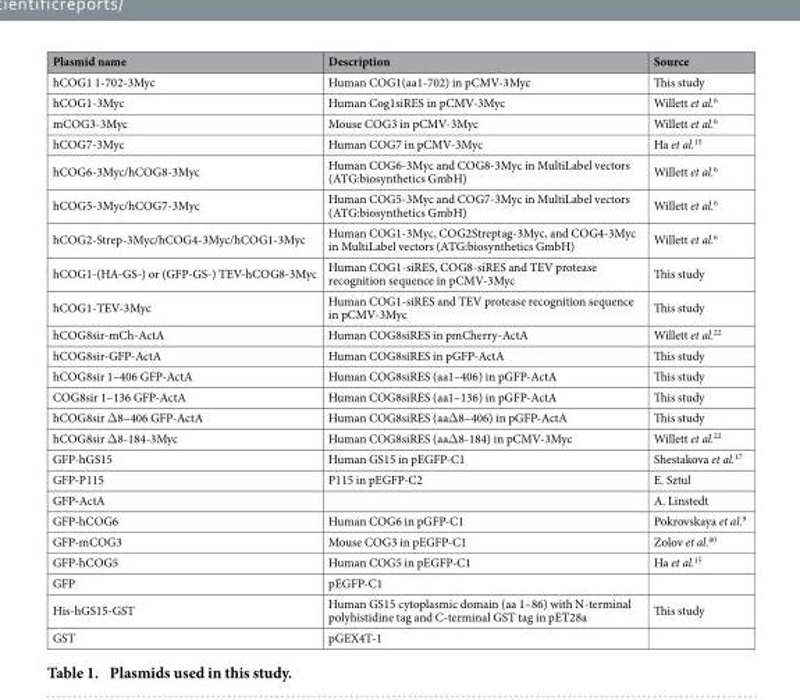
<table><thead><tr><td>Plasmid name</td><td>Description</td><td>Source</td></tr></thead><tbody><tr><td>hCOG1 1-702-3Myc</td><td>Human COG1(aa1-702) in pCMV-3Myc</td><td>This study</td></tr><tr><td>hCOG1-3Myc</td><td>Human Cog1siRES in pCMV-3Myc</td><td>Willett et al.<sup>6</sup></td></tr><tr><td>mCOG3-3Myc</td><td>Mouse COG3 in pCMV-3Myc</td><td>Willett et al.<sup>6</sup></td></tr><tr><td>hCOG7-3Myc</td><td>Human COG7 in pCMV-3Myc</td><td>Ha et al.<sup>15</sup></td></tr><tr><td>hCOG6-3Myc/hCOG8-3Myc</td><td>Human COG6-3Myc and COG8-3Myc in MultiLabel vectors (ATG:biosynthetics GmbH)</td><td>Willett et al.<sup>6</sup></td></tr><tr><td>hCOG5-3Myc/hCOG7-3Myc</td><td>Human COG5-3Myc and COG7-3Myc in MultiLabel vectors (ATG:biosynthetics GmbH)</td><td>Willett et al.<sup>6</sup></td></tr><tr><td>hCOG2-Strep-3Myc/hCOG4-3Myc/hCOG1-3Myc</td><td>Human COG1-3Myc, COG2Streptag-3Myc, and COG4-3Myc in MultiLabel vectors (ATG:biosynthetics GmbH)</td><td>Willett et al.<sup>6</sup></td></tr><tr><td>hCOG1-(HA-GS-) or (GFP-GS-) TEV-hCOG8-3Myc</td><td>Human COG1-siRES, COG8-siRES and TEV protease recognition sequence in pCMV-3Myc</td><td>This study</td></tr><tr><td>hCOG1-TEV-3Myc</td><td>Human COG1-siRES and TEV protease recognition sequence in pCMV-3Myc</td><td>This study</td></tr><tr><td>hCOG8sir-mCh-ActA</td><td>Human COG8siRES in pmCherry-ActA</td><td>Willett et al.<sup>22</sup></td></tr><tr><td>hCOG8sir-GFP-ActA</td><td>Human COG8siRES in pGFP-ActA</td><td>This study</td></tr><tr><td>hCOG8sir 1–406 GFP-ActA</td><td>Human COG8siRES (aa1–406) in pGFP-ActA</td><td>This study</td></tr><tr><td>COG8sir 1–136 GFP-ActA</td><td>Human COG8siRES (aa1–136) in pGFP-ActA</td><td>This study</td></tr><tr><td>hCOG8sir Δ8–406 GFP-ActA</td><td>Human COG8siRES (aaΔ8–406) in pGFP-ActA</td><td>This study</td></tr><tr><td>hCOG8sir Δ8-184-3Myc</td><td>Human COG8siRES (aaΔ8-184) in pCMV-3Myc</td><td>Willett et al.<sup>22</sup></td></tr><tr><td>GFP-hGS15</td><td>Human GS15 in pEGFP-C1</td><td>Shestakova et al.<sup>17</sup></td></tr><tr><td>GFP-P115</td><td>P115 in pEGFP-C2</td><td>E. Sztul</td></tr><tr><td>GFP-ActA</td><td></td><td>A. Linstedt</td></tr><tr><td>GFP-hCOG6</td><td>Human COG6 in pGFP-C1</td><td>Pokrovskaya et al.<sup>9</sup></td></tr><tr><td>GFP-mCOG3</td><td>Mouse COG3 in pEGFP-C1</td><td>Zolov et al.<sup>40</sup></td></tr><tr><td>GFP-hCOG5</td><td>Human COG5 in pEGFP-C1</td><td>Ha et al.<sup>15</sup></td></tr><tr><td>GFP</td><td>pEGFP-C1</td><td></td></tr><tr><td>His-hGS15-GST</td><td>Human GS15 cytoplasmic domain (aa 1–86) with N-terminal polyhistidine tag and C-terminal GST tag in pET28a</td><td>This study</td></tr><tr><td>GST</td><td>pGEX4T-1</td><td></td></tr></tbody></table>